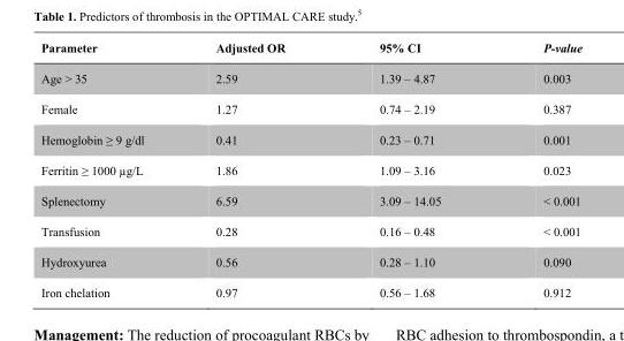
<table><thead><tr><td>Parameter</td><td>Adjusted OR</td><td>95% CI</td><td>P-value</td></tr></thead><tbody><tr><td>Age &gt; 35</td><td>2.59</td><td>1.39 – 4.87</td><td>0.003</td></tr><tr><td>Female</td><td>1.27</td><td>0.74 – 2.19</td><td>0.387</td></tr><tr><td>Hemoglobin ≥ 9 g/dl</td><td>0.41</td><td>0.23 – 0.71</td><td>0.001</td></tr><tr><td>Ferritin ≥ 1000 µg/L</td><td>1.86</td><td>1.09 – 3.16</td><td>0.023</td></tr><tr><td>Splenectomy</td><td>6.59</td><td>3.09 – 14.05</td><td>&lt; 0.001</td></tr><tr><td>Transfusion</td><td>0.28</td><td>0.16 – 0.48</td><td>&lt; 0.001</td></tr><tr><td>Hydroxyurea</td><td>0.56</td><td>0.28 – 1.10</td><td>0.090</td></tr><tr><td>Iron chelation</td><td>0.97</td><td>0.56 – 1.68</td><td>0.912</td></tr></tbody></table>